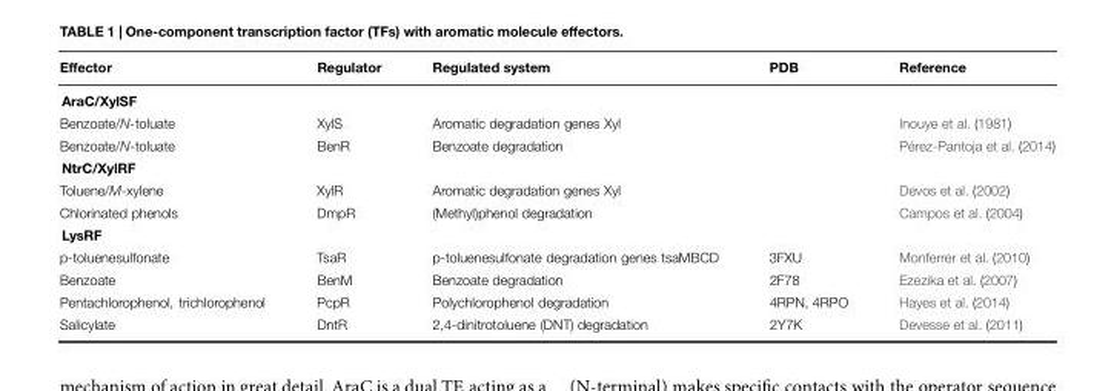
<table><thead><tr><td>Effector</td><td>Regulator</td><td>Regulated system</td><td>PDB</td><td>Reference</td></tr></thead><tbody><tr><td colspan="5">AraC/XylSF</td></tr><tr><td>Benzoate/N-toluate</td><td>XylS</td><td>Aromatic degradation genes Xyl</td><td></td><td>Inouye et al. (1981)</td></tr><tr><td>Benzoate/N-toluate</td><td>BenR</td><td>Benzoate degradation</td><td></td><td>Pérez-Pantoja et al. (2014)</td></tr><tr><td colspan="5">NtrC/XylRF</td></tr><tr><td>Toluene/M-xylene</td><td>XylR</td><td>Aromatic degradation genes Xyl</td><td></td><td>Devos et al. (2002)</td></tr><tr><td>Chlorinated phenols</td><td>DmpR</td><td>(Methyl)phenol degradation</td><td></td><td>Campos et al. (2004)</td></tr><tr><td colspan="5">LysRF</td></tr><tr><td>p-toluenesulfonate</td><td>TsaR</td><td>p-toluenesulfonate degradation genes tsaMBCD</td><td>3FXU</td><td>Monferrer et al. (2010)</td></tr><tr><td>Benzoate</td><td>BenM</td><td>Benzoate degradation</td><td>2F78</td><td>Ezezika et al. (2007)</td></tr><tr><td>Pentachlorophenol, trichlorophenol</td><td>PcpR</td><td>Polychlorophenol degradation</td><td>4RPN, 4RPO</td><td>Hayes et al. (2014)</td></tr><tr><td>Salicylate</td><td>DntR</td><td>2,4-dinitrotoluene (DNT) degradation</td><td>2Y7K</td><td>Devesse et al. (2011)</td></tr></tbody></table>